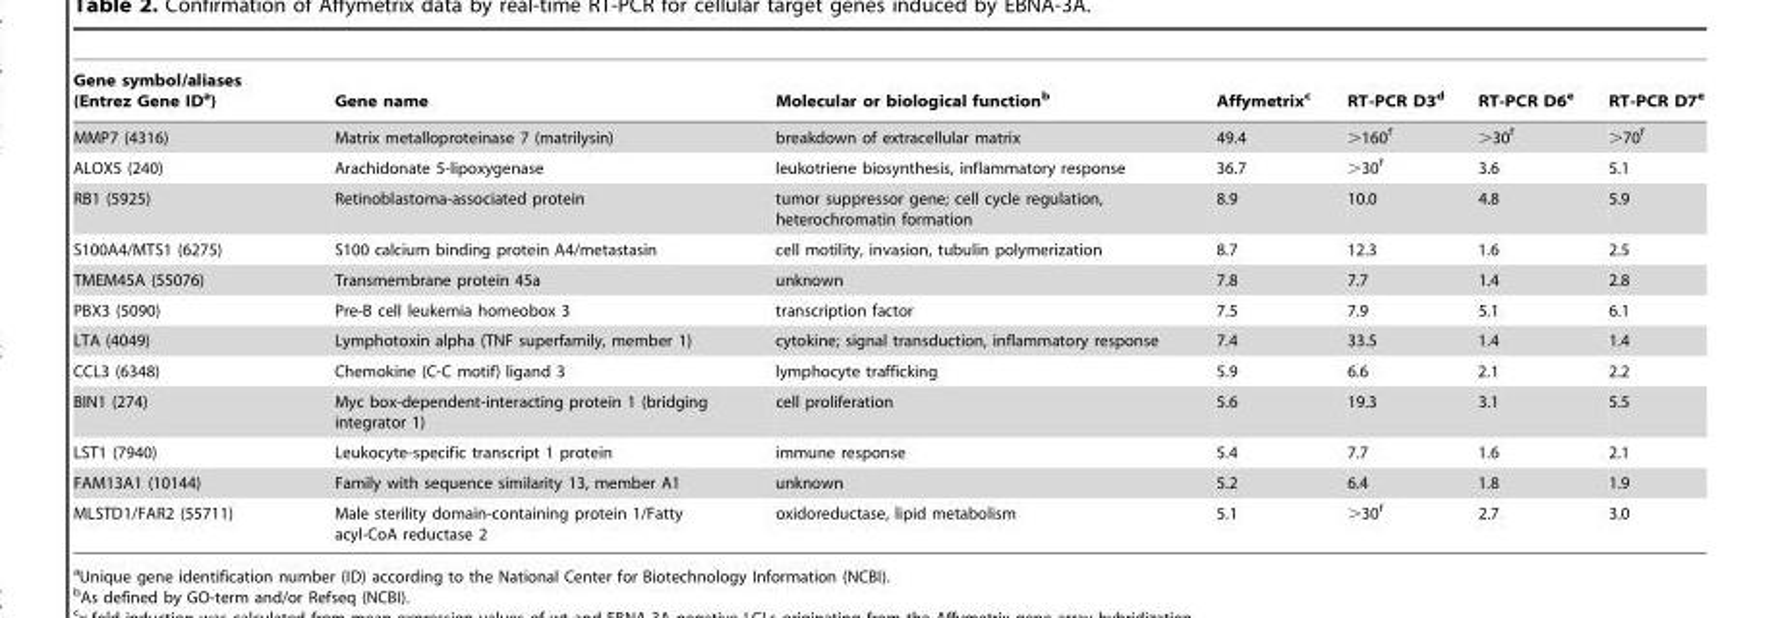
<table><thead><tr><td>Gene symbol/aliases (Entrez Gene ID<sup>a</sup>)</td><td>Gene name</td><td>Molecular or biological function<sup>b</sup></td><td>Affymetrix<sup>c</sup></td><td>RT-PCR D3<sup>d</sup></td><td>RT-PCR D6<sup>e</sup></td><td>RT-PCR D7<sup>e</sup></td></tr></thead><tbody><tr><td>MMP7 (4316)</td><td>Matrix metalloproteinase 7 (matrilysin)</td><td>breakdown of extracellular matrix</td><td>49.4</td><td>&gt;160<sup>f</sup></td><td>&gt;30<sup>f</sup></td><td>&gt;70<sup>f</sup></td></tr><tr><td>ALOX5 (240)</td><td>Arachidonate 5-lipoxygenase</td><td>leukotriene biosynthesis, inflammatory response</td><td>36.7</td><td>&gt;30<sup>f</sup></td><td>3.6</td><td>5.1</td></tr><tr><td>RB1 (5925)</td><td>Retinoblastoma-associated protein</td><td>tumor suppressor gene; cell cycle regulation, heterochromatin formation</td><td>8.9</td><td>10.0</td><td>4.8</td><td>5.9</td></tr><tr><td>S100A4/MTS1 (6275)</td><td>S100 calcium binding protein A4/metastasin</td><td>cell motility, invasion, tubulin polymerization</td><td>8.7</td><td>12.3</td><td>1.6</td><td>2.5</td></tr><tr><td>TMEM45A (55076)</td><td>Transmembrane protein 45a</td><td>unknown</td><td>7.8</td><td>7.7</td><td>1.4</td><td>2.8</td></tr><tr><td>PBX3 (5090)</td><td>Pre-B cell leukemia homeobox 3</td><td>transcription factor</td><td>7.5</td><td>7.9</td><td>5.1</td><td>6.1</td></tr><tr><td>LTA (4049)</td><td>Lymphotoxin alpha (TNF superfamily, member 1)</td><td>cytokine; signal transduction, inflammatory response</td><td>7.4</td><td>33.5</td><td>1.4</td><td>1.4</td></tr><tr><td>CCL3 (6348)</td><td>Chemokine (C-C motif) ligand 3</td><td>lymphocyte trafficking</td><td>5.9</td><td>6.6</td><td>2.1</td><td>2.2</td></tr><tr><td>BIN1 (274)</td><td>Myc box-dependent-interacting protein 1 (bridging integrator 1)</td><td>cell proliferation</td><td>5.6</td><td>19.3</td><td>3.1</td><td>5.5</td></tr><tr><td>LST1 (7940)</td><td>Leukocyte-specific transcript 1 protein</td><td>immune response</td><td>5.4</td><td>7.7</td><td>1.6</td><td>2.1</td></tr><tr><td>FAM13A1 (10144)</td><td>Family with sequence similarity 13, member A1</td><td>unknown</td><td>5.2</td><td>6.4</td><td>1.8</td><td>1.9</td></tr><tr><td>MLSTD1/FAR2 (55711)</td><td>Male sterility domain-containing protein 1/Fatty acyl-CoA reductase 2</td><td>oxidoreductase, lipid metabolism</td><td>5.1</td><td>&gt;30<sup>f</sup></td><td>2.7</td><td>3.0</td></tr></tbody></table>